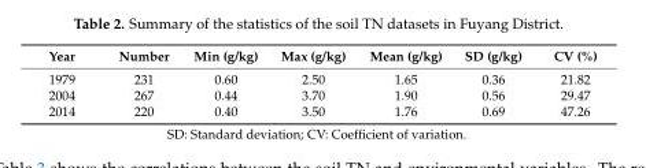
<table><thead><tr><td>Year</td><td>Number</td><td>Min (g/kg)</td><td>Max (g/kg)</td><td>Mean (g/kg)</td><td>SD (g/kg)</td><td>CV (%)</td></tr></thead><tbody><tr><td>1979</td><td>231</td><td>0.60</td><td>2.50</td><td>1.65</td><td>0.36</td><td>21.82</td></tr><tr><td>2004</td><td>267</td><td>0.44</td><td>3.70</td><td>1.90</td><td>0.56</td><td>29.47</td></tr><tr><td>2014</td><td>220</td><td>0.40</td><td>3.50</td><td>1.76</td><td>0.69</td><td>47.26</td></tr></tbody></table>